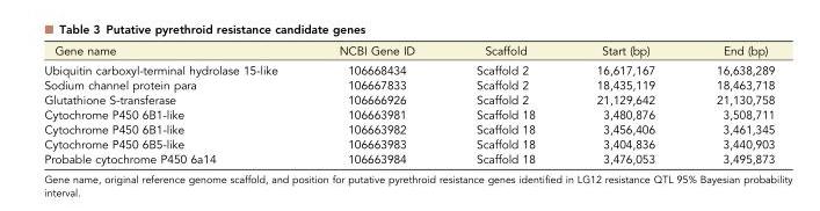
<table><thead><tr><td>Gene name</td><td>NCBI Gene ID</td><td>Scaffold</td><td>Start (bp)</td><td>End (bp)</td></tr></thead><tbody><tr><td>Ubiquitin carboxyl-terminal hydrolase 15-like</td><td>106668434</td><td>Scaffold 2</td><td>16,617,167</td><td>16,638,289</td></tr><tr><td>Sodium channel protein para</td><td>106667833</td><td>Scaffold 2</td><td>18,435,119</td><td>18,463,718</td></tr><tr><td>Glutathione S-transferase</td><td>106666926</td><td>Scaffold 2</td><td>21,129,642</td><td>21,130,758</td></tr><tr><td>Cytochrome P450 6B1-like</td><td>106663981</td><td>Scaffold 18</td><td>3,480,876</td><td>3,508,711</td></tr><tr><td>Cytochrome P450 6B1-like</td><td>106663982</td><td>Scaffold 18</td><td>3,456,406</td><td>3,461,345</td></tr><tr><td>Cytochrome P450 6B5-like</td><td>106663983</td><td>Scaffold 18</td><td>3,404,836</td><td>3,440,903</td></tr><tr><td>Probable cytochrome P450 6a14</td><td>106663984</td><td>Scaffold 18</td><td>3,476,053</td><td>3,495,873</td></tr></tbody></table>